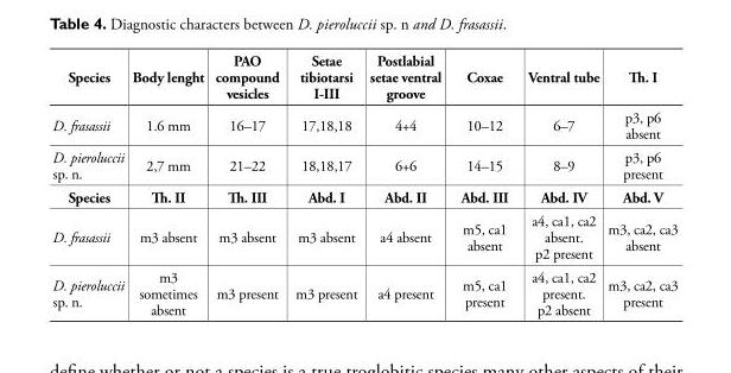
<table><thead><tr><td>Species</td><td>Body lenght</td><td>PAO compound vesicles</td><td>Setae tibiotarsi I-III</td><td>Postlabial setae ventral groove</td><td>Coxae</td><td>Ventral tube</td><td>Th. I</td></tr></thead><tbody><tr><td>D. frasassii</td><td>1.6 mm</td><td>16–17</td><td>17,18,18</td><td>4+4</td><td>10–12</td><td>6–7</td><td>p3, p6 absent</td></tr><tr><td>D. pieroluccii sp. n.</td><td>2,7 mm</td><td>21–22</td><td>18,18,17</td><td>6+6</td><td>14–15</td><td>8–9</td><td>p3, p6 present</td></tr><tr><td>Species</td><td>Th. II</td><td>Th. III</td><td>Abd. I</td><td>Abd. II</td><td>Abd. III</td><td>Abd. IV</td><td>Abd. V</td></tr><tr><td>D. frasassii</td><td>m3 absent</td><td>m3 absent</td><td>m3 absent</td><td>a4 absent</td><td>m5, ca1 absent</td><td>a4, ca1, ca2 absent. p2 present</td><td>m3, ca2, ca3 absent</td></tr><tr><td>D. pieroluccii sp. n.</td><td>m3 sometimes absent</td><td>m3 present</td><td>m3 present</td><td>a4 present</td><td>m5, ca1 present</td><td>a4, ca1, ca2 present. p2 absent</td><td>m3, ca2, ca3 present</td></tr></tbody></table>